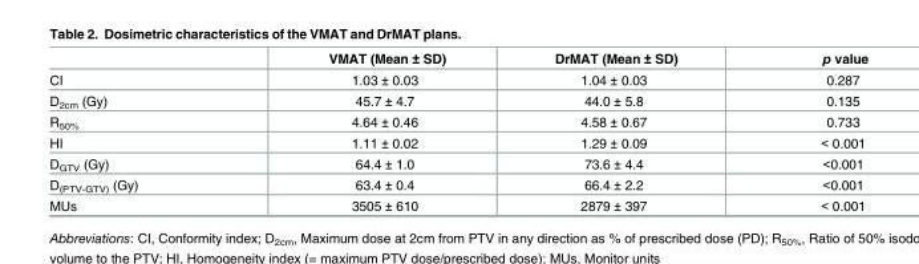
<table><thead><tr><td></td><td>VMAT (Mean ± SD)</td><td>DrMAT (Mean ± SD)</td><td>p value</td></tr></thead><tbody><tr><td>CI</td><td>1.03 ± 0.03</td><td>1.04 ± 0.03</td><td>0.287</td></tr><tr><td>D<sub>2cm</sub> (Gy)</td><td>45.7 ± 4.7</td><td>44.0 ± 5.8</td><td>0.135</td></tr><tr><td>R<sub>50%</sub></td><td>4.64 ± 0.46</td><td>4.58 ± 0.67</td><td>0.733</td></tr><tr><td>HI</td><td>1.11 ± 0.02</td><td>1.29 ± 0.09</td><td>&lt; 0.001</td></tr><tr><td>D<sub>GTV</sub> (Gy)</td><td>64.4 ± 1.0</td><td>73.6 ± 4.4</td><td>&lt;0.001</td></tr><tr><td>D<sub>(PTV-GTV)</sub> (Gy)</td><td>63.4 ± 0.4</td><td>66.4 ± 2.2</td><td>&lt;0.001</td></tr><tr><td>MUs</td><td>3505 ± 610</td><td>2879 ± 397</td><td>&lt; 0.001</td></tr></tbody></table>